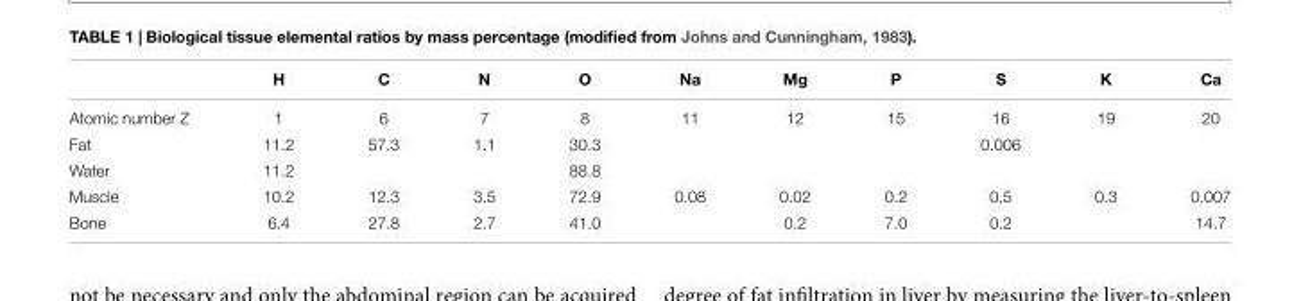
<table><thead><tr><td></td><td>H</td><td>C</td><td>N</td><td>O</td><td>Na</td><td>Mg</td><td>P</td><td>S</td><td>K</td><td>Ca</td></tr></thead><tbody><tr><td>Atomic number Z</td><td>1</td><td>6</td><td>7</td><td>8</td><td>11</td><td>12</td><td>15</td><td>16</td><td>19</td><td>20</td></tr><tr><td>Fat</td><td>11.2</td><td>57.3</td><td>1.1</td><td>30.3</td><td></td><td></td><td></td><td>0.006</td><td></td><td></td></tr><tr><td>Water</td><td>11.2</td><td></td><td></td><td>88.8</td><td></td><td></td><td></td><td></td><td></td><td></td></tr><tr><td>Muscle</td><td>10.2</td><td>12.3</td><td>3.5</td><td>72.9</td><td>0.08</td><td>0.02</td><td>0.2</td><td>0.5</td><td>0.3</td><td>0.007</td></tr><tr><td>Bone</td><td>6.4</td><td>27.8</td><td>2.7</td><td>41.0</td><td></td><td>0.2</td><td>7.0</td><td>0.2</td><td></td><td>14.7</td></tr></tbody></table>